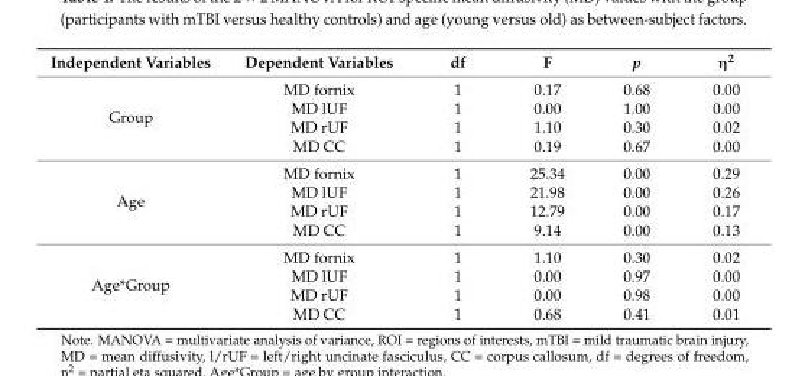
<table><thead><tr><td>Independent Variables</td><td>Dependent Variables</td><td>df</td><td>F</td><td>p</td><td>η<sup>2</sup></td></tr></thead><tbody><tr><td rowspan="4">Group</td><td>MD fornix</td><td>1</td><td>0.17</td><td>0.68</td><td>0.00</td></tr><tr><td>MD lUF</td><td>1</td><td>0.00</td><td>1.00</td><td>0.00</td></tr><tr><td>MD rUF</td><td>1</td><td>1.10</td><td>0.30</td><td>0.02</td></tr><tr><td>MD CC</td><td>1</td><td>0.19</td><td>0.67</td><td>0.00</td></tr><tr><td rowspan="4">Age</td><td>MD fornix</td><td>1</td><td>25.34</td><td>0.00</td><td>0.29</td></tr><tr><td>MD lUF</td><td>1</td><td>21.98</td><td>0.00</td><td>0.26</td></tr><tr><td>MD rUF</td><td>1</td><td>12.79</td><td>0.00</td><td>0.17</td></tr><tr><td>MD CC</td><td>1</td><td>9.14</td><td>0.00</td><td>0.13</td></tr><tr><td rowspan="4">Age*Group</td><td>MD fornix</td><td>1</td><td>1.10</td><td>0.30</td><td>0.02</td></tr><tr><td>MD lUF</td><td>1</td><td>0.00</td><td>0.97</td><td>0.00</td></tr><tr><td>MD rUF</td><td>1</td><td>0.00</td><td>0.98</td><td>0.00</td></tr><tr><td>MD CC</td><td>1</td><td>0.68</td><td>0.41</td><td>0.01</td></tr></tbody></table>